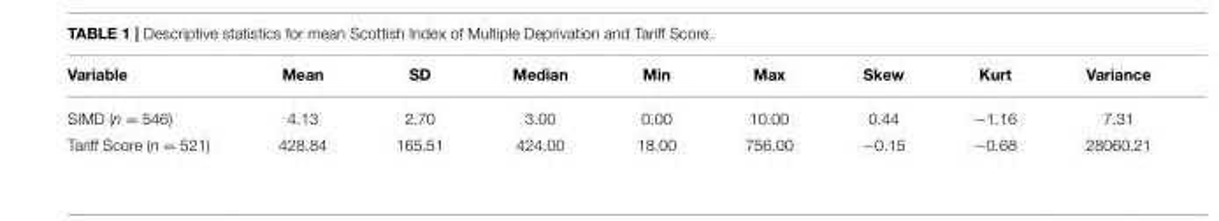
<table><thead><tr><td>Variable</td><td>Mean</td><td>SD</td><td>Median</td><td>Min</td><td>Max</td><td>Skew</td><td>Kurt</td><td>Variance</td></tr></thead><tbody><tr><td>SIMD (n = 546)</td><td>4.13</td><td>2.70</td><td>3.00</td><td>0.00</td><td>10.00</td><td>0.44</td><td>−1.16</td><td>7.31</td></tr><tr><td>Tariff Score (n = 521)</td><td>428.84</td><td>165.51</td><td>424.00</td><td>18.00</td><td>756.00</td><td>−0.15</td><td>−0.68</td><td>28060.21</td></tr></tbody></table>